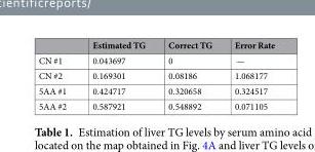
<table><thead><tr><td></td><td>Estimated TG</td><td>Correct TG</td><td>Error Rate</td></tr></thead><tbody><tr><td>CN #1</td><td>0.043697</td><td>0</td><td>—</td></tr><tr><td>CN #2</td><td>0.169301</td><td>0.08186</td><td>1.068177</td></tr><tr><td>5AA #1</td><td>0.424717</td><td>0.320658</td><td>0.324517</td></tr><tr><td>5AA #2</td><td>0.587921</td><td>0.548892</td><td>0.071105</td></tr></tbody></table>